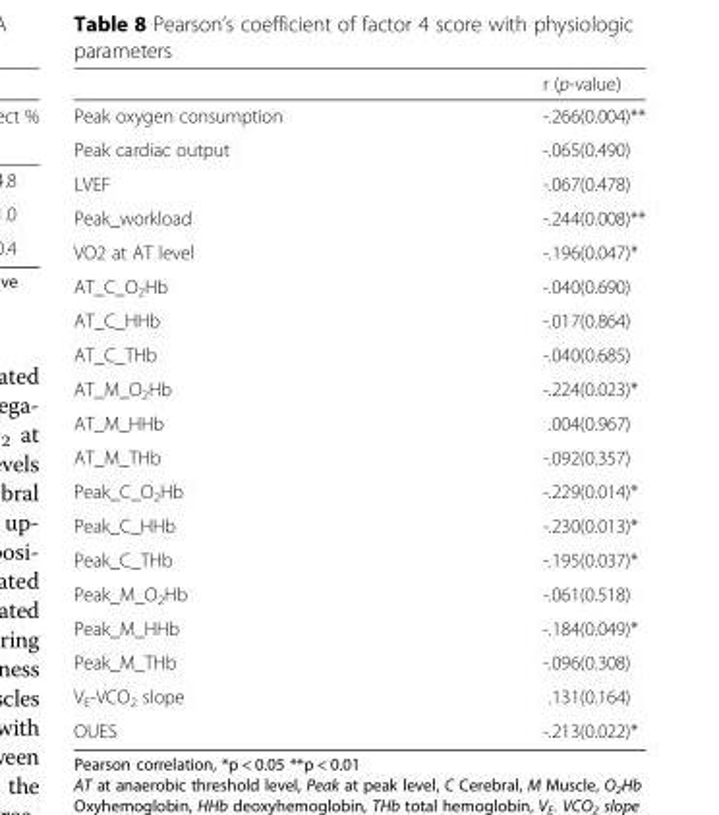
<table><thead><tr><td></td><td>r (p-value)</td></tr></thead><tbody><tr><td>Peak oxygen consumption</td><td>-.266(0.004)**</td></tr><tr><td>Peak cardiac output</td><td>-.065(0.490)</td></tr><tr><td>LVEF</td><td>-.067(0.478)</td></tr><tr><td>Peak_workload</td><td>-.244(0.008)**</td></tr><tr><td>VO2 at AT level</td><td>-.196(0.047)*</td></tr><tr><td>AT_C_O<sub>2</sub>Hb</td><td>-.040(0.690)</td></tr><tr><td>AT_C_HHb</td><td>-.017(0.864)</td></tr><tr><td>AT_C_THb</td><td>-.040(0.685)</td></tr><tr><td>AT_M_O<sub>2</sub>Hb</td><td>-.224(0.023)*</td></tr><tr><td>AT_M_HHb</td><td>.004(0.967)</td></tr><tr><td>AT_M_THb</td><td>-.092(0.357)</td></tr><tr><td>Peak_C_O<sub>2</sub>Hb</td><td>-.229(0.014)*</td></tr><tr><td>Peak_C_HHb</td><td>-.230(0.013)*</td></tr><tr><td>Peak_C_THb</td><td>-.195(0.037)*</td></tr><tr><td>Peak_M_O<sub>2</sub>Hb</td><td>-.061(0.518)</td></tr><tr><td>Peak_M_HHb</td><td>-.184(0.049)*</td></tr><tr><td>Peak_M_THb</td><td>-.096(0.308)</td></tr><tr><td>V<sub>E</sub>-VCO<sub>2</sub> slope</td><td>.131(0.164)</td></tr><tr><td>OUES</td><td>-.213(0.022)*</td></tr></tbody></table>